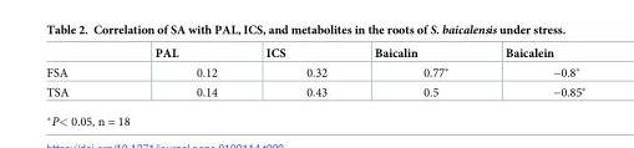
<table><thead><tr><td></td><td>PAL</td><td>ICS</td><td>Baicalin</td><td>Baicalein</td></tr></thead><tbody><tr><td>FSA</td><td>0.12</td><td>0.32</td><td>0.77*</td><td>−0.8*</td></tr><tr><td>TSA</td><td>0.14</td><td>0.43</td><td>0.5</td><td>−0.85*</td></tr></tbody></table>